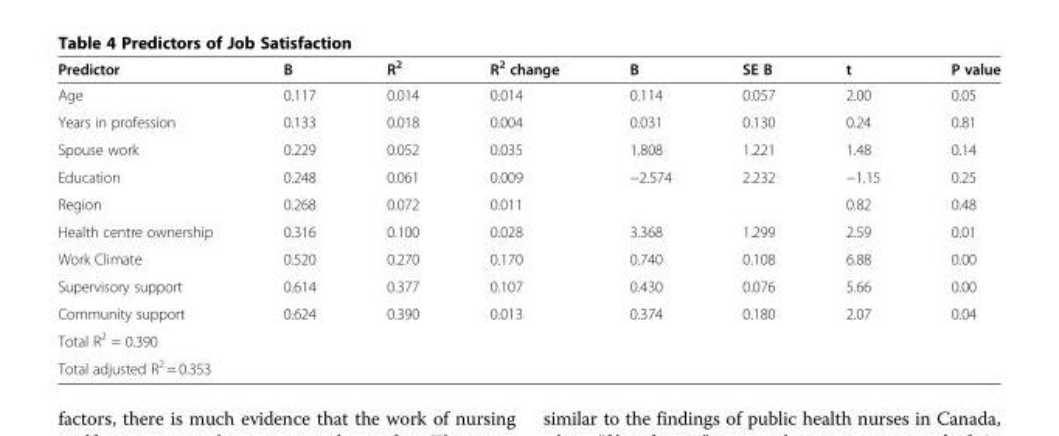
<table><thead><tr><td>Predictor</td><td>B</td><td>R<sup>2</sup></td><td>R<sup>2</sup> change</td><td>B</td><td>SE B</td><td>t</td><td>P value</td></tr></thead><tbody><tr><td>Age</td><td>0.117</td><td>0.014</td><td>0.014</td><td>0.114</td><td>0.057</td><td>2.00</td><td>0.05</td></tr><tr><td>Years in profession</td><td>0.133</td><td>0.018</td><td>0.004</td><td>0.031</td><td>0.130</td><td>0.24</td><td>0.81</td></tr><tr><td>Spouse work</td><td>0.229</td><td>0.052</td><td>0.035</td><td>1.808</td><td>1.221</td><td>1.48</td><td>0.14</td></tr><tr><td>Education</td><td>0.248</td><td>0.061</td><td>0.009</td><td>−2.574</td><td>2.232</td><td>−1.15</td><td>0.25</td></tr><tr><td>Region</td><td>0.268</td><td>0.072</td><td>0.011</td><td></td><td></td><td>0.82</td><td>0.48</td></tr><tr><td>Health centre ownership</td><td>0.316</td><td>0.100</td><td>0.028</td><td>3.368</td><td>1.299</td><td>2.59</td><td>0.01</td></tr><tr><td>Work Climate</td><td>0.520</td><td>0.270</td><td>0.170</td><td>0.740</td><td>0.108</td><td>6.88</td><td>0.00</td></tr><tr><td>Supervisory support</td><td>0.614</td><td>0.377</td><td>0.107</td><td>0.430</td><td>0.076</td><td>5.66</td><td>0.00</td></tr><tr><td>Community support</td><td>0.624</td><td>0.390</td><td>0.013</td><td>0.374</td><td>0.180</td><td>2.07</td><td>0.04</td></tr><tr><td colspan="8">Total R<sup>2</sup> = 0.390</td></tr><tr><td>Total adjusted R<sup>2</sup> = 0.353</td><td></td><td></td><td></td><td></td><td></td><td></td><td></td></tr></tbody></table>